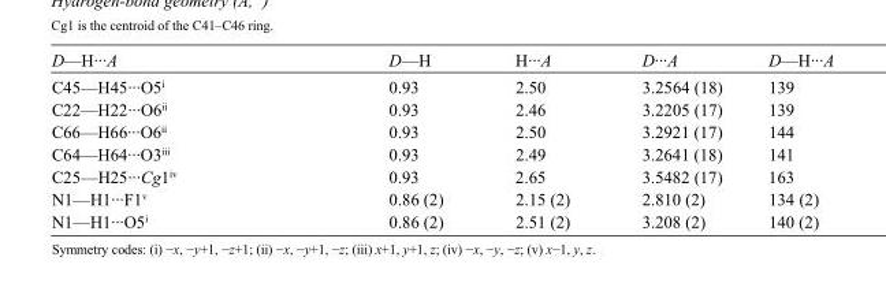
<table><tbody><tr><td>D—H···A</td><td>D—H</td><td>H···A</td><td>D···A</td><td>D—H···A</td></tr><tr><td>C45—H45···O5<sup>i</sup></td><td>0.93</td><td>2.50</td><td>3.2564 (18)</td><td>139</td></tr><tr><td>C22—H22···O6<sup>ii</sup></td><td>0.93</td><td>2.46</td><td>3.2205 (17)</td><td>139</td></tr><tr><td>C66—H66···O6<sup>ii</sup></td><td>0.93</td><td>2.50</td><td>3.2921 (17)</td><td>144</td></tr><tr><td>C64—H64···O3<sup>iii</sup></td><td>0.93</td><td>2.49</td><td>3.2641 (18)</td><td>141</td></tr><tr><td>C25—H25···Cg1<sup>iv</sup></td><td>0.93</td><td>2.65</td><td>3.5482 (17)</td><td>163</td></tr><tr><td>N1—H1···F1<sup>v</sup></td><td>0.86 (2)</td><td>2.15 (2)</td><td>2.810 (2)</td><td>134 (2)</td></tr><tr><td>N1—H1···O5<sup>i</sup></td><td>0.86 (2)</td><td>2.51 (2)</td><td>3.208 (2)</td><td>140 (2)</td></tr></tbody></table>